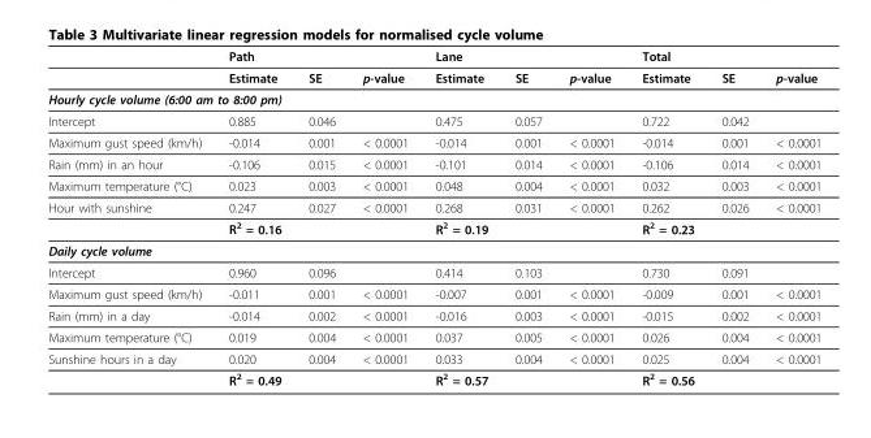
<table><thead><tr><td rowspan="2"></td><td colspan="3">Path</td><td colspan="3">Lane</td><td colspan="3">Total</td></tr><tr><td>Estimate</td><td>SE</td><td>p-value</td><td>Estimate</td><td>SE</td><td>p-value</td><td>Estimate</td><td>SE</td><td>p-value</td></tr></thead><tbody><tr><td colspan="10">Hourly cycle volume (6:00 am to 8:00 pm)</td></tr><tr><td>Intercept</td><td>0.885</td><td>0.046</td><td></td><td>0.475</td><td>0.057</td><td></td><td>0.722</td><td>0.042</td><td></td></tr><tr><td>Maximum gust speed (km/h)</td><td>-0.014</td><td>0.001</td><td>&lt; 0.0001</td><td>-0.014</td><td>0.001</td><td>&lt; 0.0001</td><td>-0.014</td><td>0.001</td><td>&lt; 0.0001</td></tr><tr><td>Rain (mm) in an hour</td><td>-0.106</td><td>0.015</td><td>&lt; 0.0001</td><td>-0.101</td><td>0.014</td><td>&lt; 0.0001</td><td>-0.106</td><td>0.014</td><td>&lt; 0.0001</td></tr><tr><td>Maximum temperature (°C)</td><td>0.023</td><td>0.003</td><td>&lt; 0.0001</td><td>0.048</td><td>0.004</td><td>&lt; 0.0001</td><td>0.032</td><td>0.003</td><td>&lt; 0.0001</td></tr><tr><td rowspan="2">Hour with sunshine</td><td>0.247</td><td>0.027</td><td>&lt; 0.0001</td><td>0.268</td><td>0.031</td><td>&lt; 0.0001</td><td>0.262</td><td>0.026</td><td>&lt; 0.0001</td></tr><tr><td>R<sup>2</sup> = 0.16</td><td></td><td></td><td>R<sup>2</sup> = 0.19</td><td></td><td></td><td>R<sup>2</sup> = 0.23</td><td></td><td></td></tr><tr><td colspan="10">Daily cycle volume</td></tr><tr><td>Intercept</td><td>0.960</td><td>0.096</td><td></td><td>0.414</td><td>0.103</td><td></td><td>0.730</td><td>0.091</td><td></td></tr><tr><td>Maximum gust speed (km/h)</td><td>-0.011</td><td>0.001</td><td>&lt; 0.0001</td><td>-0.007</td><td>0.001</td><td>&lt; 0.0001</td><td>-0.009</td><td>0.001</td><td>&lt; 0.0001</td></tr><tr><td>Rain (mm) in a day</td><td>-0.014</td><td>0.002</td><td>&lt; 0.0001</td><td>-0.016</td><td>0.003</td><td>&lt; 0.0001</td><td>-0.015</td><td>0.002</td><td>&lt; 0.0001</td></tr><tr><td>Maximum temperature (°C)</td><td>0.019</td><td>0.004</td><td>&lt; 0.0001</td><td>0.037</td><td>0.005</td><td>&lt; 0.0001</td><td>0.026</td><td>0.004</td><td>&lt; 0.0001</td></tr><tr><td rowspan="2">Sunshine hours in a day</td><td>0.020</td><td>0.004</td><td>&lt; 0.0001</td><td>0.033</td><td>0.004</td><td>&lt; 0.0001</td><td>0.025</td><td>0.004</td><td>&lt; 0.0001</td></tr><tr><td>R<sup>2</sup> = 0.49</td><td></td><td></td><td>R<sup>2</sup> = 0.57</td><td></td><td></td><td>R<sup>2</sup> = 0.56</td><td></td><td></td></tr></tbody></table>